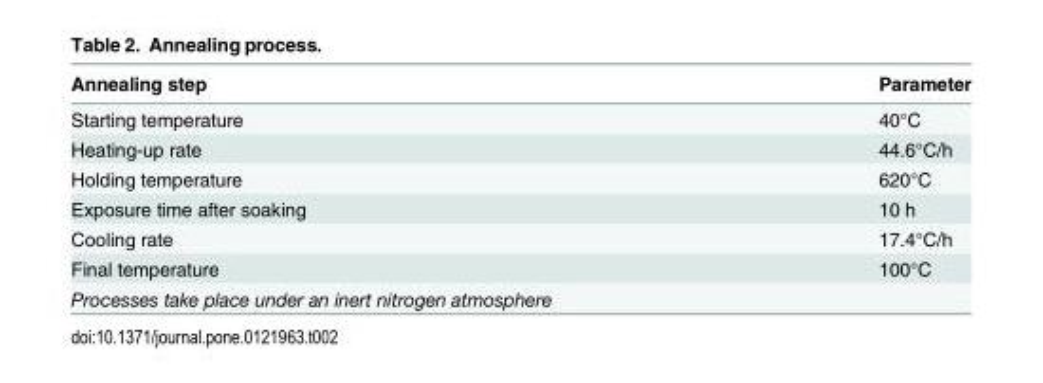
<table><thead><tr><td>Annealing step</td><td>Parameter</td></tr></thead><tbody><tr><td>Starting temperature</td><td>40°C</td></tr><tr><td>Heating-up rate</td><td>44.6°C/h</td></tr><tr><td>Holding temperature</td><td>620°C</td></tr><tr><td>Exposure time after soaking</td><td>10 h</td></tr><tr><td>Cooling rate</td><td>17.4°C/h</td></tr><tr><td>Final temperature</td><td>100°C</td></tr><tr><td colspan="2">Processes take place under an inert nitrogen atmosphere</td></tr></tbody></table>